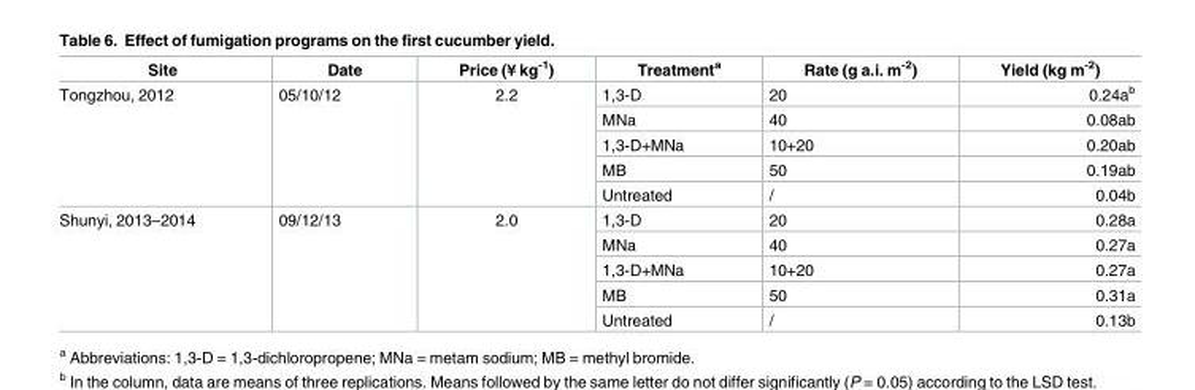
<table><thead><tr><td>Site</td><td>Date</td><td>Price (¥ kg<sup>-1</sup>)</td><td>Treatment<sup>a</sup></td><td>Rate (g a.i. m<sup>-2</sup>)</td><td>Yield (kg m<sup>-2</sup>)</td></tr></thead><tbody><tr><td rowspan="5">Tongzhou, 2012</td><td rowspan="5">05/10/12</td><td rowspan="5">2.2</td><td>1,3-D</td><td>20</td><td>0.24a<sup>b</sup></td></tr><tr><td>MNa</td><td>40</td><td>0.08ab</td></tr><tr><td>1,3-D+MNa</td><td>10+20</td><td>0.20ab</td></tr><tr><td>MB</td><td>50</td><td>0.19ab</td></tr><tr><td>Untreated</td><td>/</td><td>0.04b</td></tr><tr><td rowspan="5">Shunyi, 2013–2014</td><td rowspan="5">09/12/13</td><td rowspan="5">2.0</td><td>1,3-D</td><td>20</td><td>0.28a</td></tr><tr><td>MNa</td><td>40</td><td>0.27a</td></tr><tr><td>1,3-D+MNa</td><td>10+20</td><td>0.27a</td></tr><tr><td>MB</td><td>50</td><td>0.31a</td></tr><tr><td>Untreated</td><td>/</td><td>0.13b</td></tr></tbody></table>